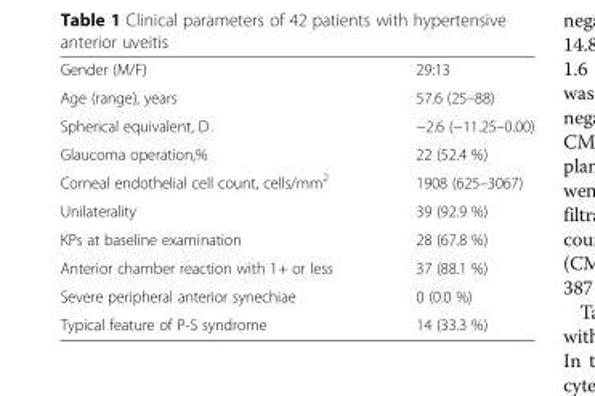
<table><tbody><tr><td>Gender (M/F)</td><td>29:13</td></tr><tr><td>Age (range), years</td><td>57.6 (25–88)</td></tr><tr><td>Spherical equivalent, D</td><td>−2.6 (−11.25–0.00)</td></tr><tr><td>Glaucoma operation,%</td><td>22 (52.4 %)</td></tr><tr><td>Corneal endothelial cell count, cells/mm<sup>2</sup></td><td>1908 (625–3067)</td></tr><tr><td>Unilaterality</td><td>39 (92.9 %)</td></tr><tr><td>KPs at baseline examination</td><td>28 (67.8 %)</td></tr><tr><td>Anterior chamber reaction with 1+ or less</td><td>37 (88.1 %)</td></tr><tr><td>Severe peripheral anterior synechiae</td><td>0 (0.0 %)</td></tr><tr><td>Typical feature of P-S syndrome</td><td>14 (33.3 %)</td></tr></tbody></table>